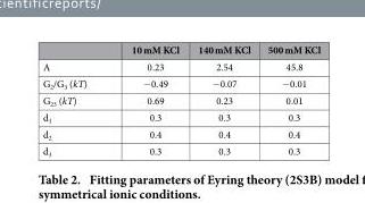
<table><thead><tr><td></td><td>10 mM KCl</td><td>140 mM KCl</td><td>500 mM KCl</td></tr></thead><tbody><tr><td>A</td><td>0.23</td><td>2.54</td><td>45.8</td></tr><tr><td>G<sub>2</sub>/G<sub>3</sub> (kT)</td><td>− 0.49</td><td>− 0.07</td><td>− 0.01</td></tr><tr><td>G<sub>23</sub> (kT)</td><td>0.69</td><td>0.23</td><td>0.01</td></tr><tr><td>d<sub>1</sub></td><td>0.3</td><td>0.3</td><td>0.3</td></tr><tr><td>d<sub>2</sub></td><td>0.4</td><td>0.4</td><td>0.4</td></tr><tr><td>d<sub>3</sub></td><td>0.3</td><td>0.3</td><td>0.3</td></tr></tbody></table>